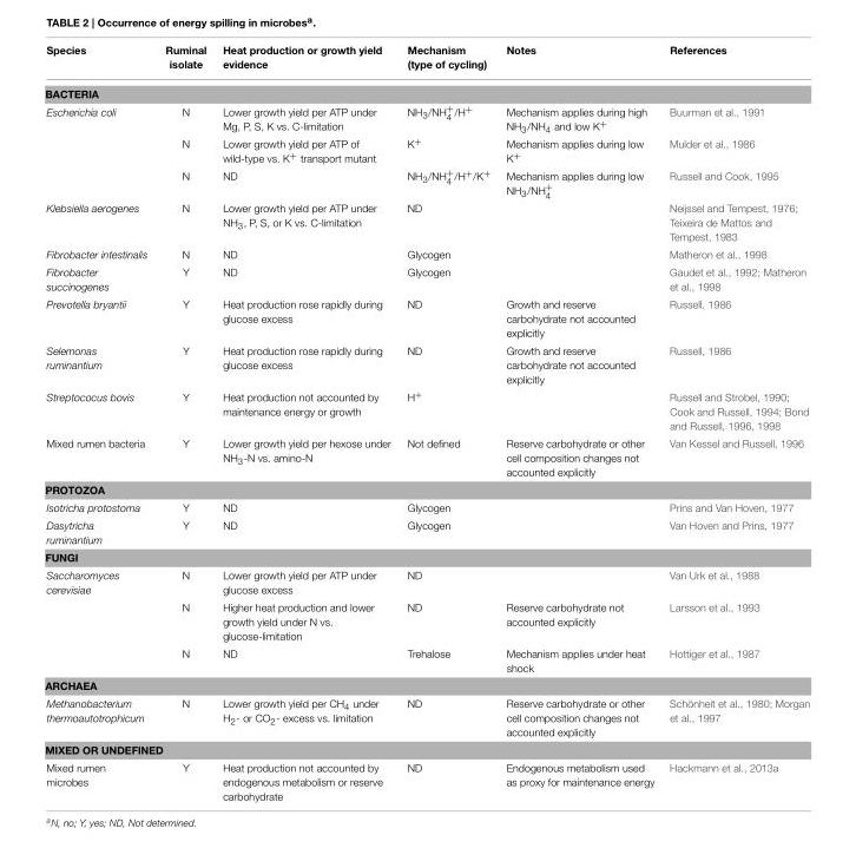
<table><thead><tr><td>Species</td><td>Ruminal isolate</td><td>Heat production or growth yield evidence</td><td>Mechanism (type of cycling)</td><td>Notes</td><td>References</td></tr></thead><tbody><tr><td colspan="6">BACTERIA</td></tr><tr><td rowspan="3">Escherichia coli</td><td>N</td><td>Lower growth yield per ATP under Mg, P, S, K vs. C-limitation</td><td>NH<sub>3</sub>/NH<sup>+</sup> <sub>4</sub> /H<sup>+</sup></td><td>Mechanism applies during high NH<sub>3</sub>/NH<sub>4</sub> and low K<sup>+</sup></td><td>Buurman et al., 1991</td></tr><tr><td>N</td><td>Lower growth yield per ATP of wild-type vs. K<sup>+</sup> transport mutant</td><td>K<sup>+</sup></td><td>Mechanism applies during low K<sup>+</sup></td><td>Mulder et al., 1986</td></tr><tr><td>N</td><td>ND</td><td>NH<sub>3</sub>/NH<sup>+</sup> <sub>4</sub> /H<sup>+</sup>/K<sup>+</sup></td><td>Mechanism applies during low NH<sub>3</sub>/NH<sup>+</sup> <sub>4</sub></td><td>Russell and Cook, 1995</td></tr><tr><td>Klebsiella aerogenes</td><td>N</td><td>Lower growth yield per ATP under NH<sub>3</sub>, P, S, or K vs. C-limitation</td><td>ND</td><td></td><td>Neijssel and Tempest, 1976; Teixeira de Mattos and Tempest, 1983</td></tr><tr><td>Fibrobacter intestinalis</td><td>N</td><td>ND</td><td>Glycogen</td><td></td><td>Matheron et al., 1998</td></tr><tr><td>Fibrobacter succinogenes</td><td>Y</td><td>ND</td><td>Glycogen</td><td></td><td>Gaudet et al., 1992; Matheron et al., 1998</td></tr><tr><td>Prevotella bryantii</td><td>Y</td><td>Heat production rose rapidly during glucose excess</td><td>ND</td><td>Growth and reserve carbohydrate not accounted explicitly</td><td>Russell, 1986</td></tr><tr><td>Selemonas ruminantium</td><td>Y</td><td>Heat production rose rapidly during glucose excess</td><td>ND</td><td>Growth and reserve carbohydrate not accounted explicitly</td><td>Russell, 1986</td></tr><tr><td>Streptococus bovis</td><td>Y</td><td>Heat production not accounted by maintenance energy or growth</td><td>H<sup>+</sup></td><td></td><td>Russell and Strobel, 1990; Cook and Russell, 1994; Bond and Russell, 1996, 1998</td></tr><tr><td>Mixed rumen bacteria</td><td>Y</td><td>Lower growth yield per hexose under NH<sub>3</sub>-N vs. amino-N</td><td>Not defined</td><td>Reserve carbohydrate or other cell composition changes not accounted explicitly</td><td>Van Kessel and Russell, 1996</td></tr><tr><td colspan="6">PROTOZOA</td></tr><tr><td>Isotricha protostoma</td><td>Y</td><td>ND</td><td>Glycogen</td><td></td><td>Prins and Van Hoven, 1977</td></tr><tr><td>Dasytricha ruminantium</td><td>Y</td><td>ND</td><td>Glycogen</td><td></td><td>Van Hoven and Prins, 1977</td></tr><tr><td colspan="6">FUNGI</td></tr><tr><td rowspan="3">Saccharomyces cerevisiae</td><td>N</td><td>Lower growth yield per ATP under glucose excess</td><td>ND</td><td></td><td>Van Urk et al., 1988</td></tr><tr><td>N</td><td>Higher heat production and lower growth yield under N vs. glucose-limitation</td><td>ND</td><td>Reserve carbohydrate not accounted explicitly</td><td>Larsson et al., 1993</td></tr><tr><td>N</td><td>ND</td><td>Trehalose</td><td>Mechanism applies under heat shock</td><td>Hottiger et al., 1987</td></tr><tr><td colspan="6">ARCHAEA</td></tr><tr><td>Methanobacterium thermoautotrophicum</td><td>N</td><td>Lower growth yield per CH<sub>4</sub> under H<sub>2</sub>- or CO<sub>2</sub>- excess vs. limitation</td><td>ND</td><td>Reserve carbohydrate or other cell composition changes not accounted explicitly</td><td>Schönheit et al., 1980; Morgan et al., 1997</td></tr><tr><td colspan="6">MIXED OR UNDEFINED</td></tr><tr><td>Mixed rumen microbes</td><td>Y</td><td>Heat production not accounted by endogenous metabolism or reserve carbohydrate</td><td>ND</td><td>Endogenous metabolism used as proxy for maintenance energy</td><td>Hackmann et al., 2013a</td></tr></tbody></table>